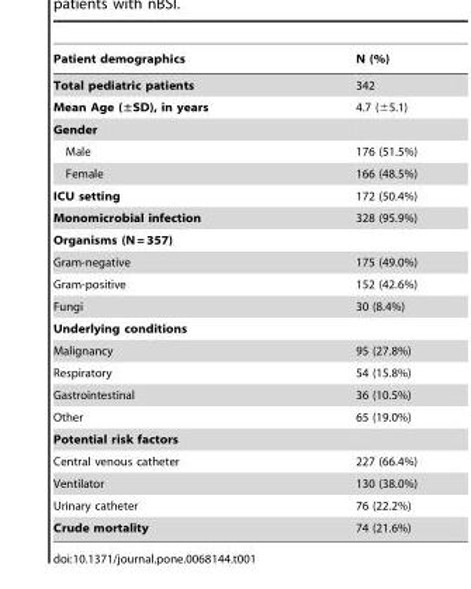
<table><thead><tr><td>Patient demographics</td><td>N (%)</td></tr></thead><tbody><tr><td>Total pediatric patients</td><td>342</td></tr><tr><td>Mean Age (±SD), in years</td><td>4.7 (±5.1)</td></tr><tr><td colspan="2">Gender</td></tr><tr><td>Male</td><td>176 (51.5%)</td></tr><tr><td>Female</td><td>166 (48.5%)</td></tr><tr><td>ICU setting</td><td>172 (50.4%)</td></tr><tr><td>Monomicrobial infection</td><td>328 (95.9%)</td></tr><tr><td colspan="2">Organisms (N = 357)</td></tr><tr><td>Gram-negative</td><td>175 (49.0%)</td></tr><tr><td>Gram-positive</td><td>152 (42.6%)</td></tr><tr><td>Fungi</td><td>30 (8.4%)</td></tr><tr><td colspan="2">Underlying conditions</td></tr><tr><td>Malignancy</td><td>95 (27.8%)</td></tr><tr><td>Respiratory</td><td>54 (15.8%)</td></tr><tr><td>Gastrointestinal</td><td>36 (10.5%)</td></tr><tr><td>Other</td><td>65 (19.0%)</td></tr><tr><td colspan="2">Potential risk factors</td></tr><tr><td>Central venous catheter</td><td>227 (66.4%)</td></tr><tr><td>Ventilator</td><td>130 (38.0%)</td></tr><tr><td>Urinary catheter</td><td>76 (22.2%)</td></tr><tr><td>Crude mortality</td><td>74 (21.6%)</td></tr></tbody></table>